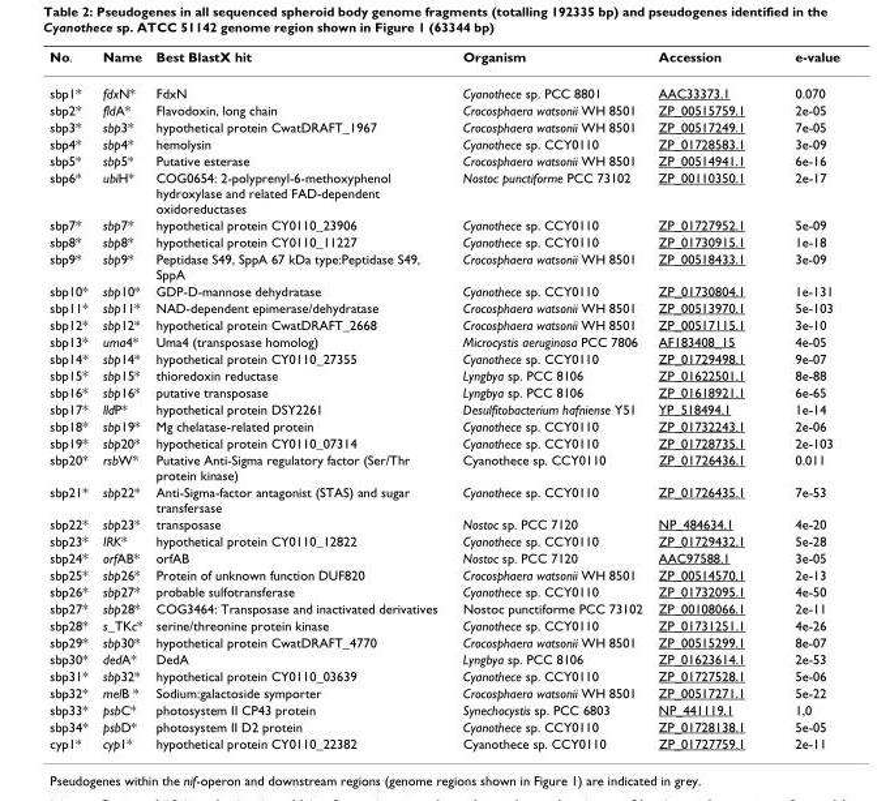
<table><thead><tr><td>No.</td><td>Name</td><td>Best BlastX hit</td><td>Organism</td><td>Accession</td><td>e-value</td></tr></thead><tbody><tr><td>sbp1*</td><td>fdxN*</td><td>FdxN</td><td>Cyanothece sp. PCC 8801</td><td>AAC33373.1</td><td>0.070</td></tr><tr><td>sbp2*</td><td>fldA*</td><td>Flavodoxin, long chain</td><td>Crocosphaera watsonii WH 8501</td><td>ZP_00515759.1</td><td>2e-05</td></tr><tr><td>sbp3*</td><td>sbp3*</td><td>hypothetical protein CwatDRAFT_1967</td><td>Crocosphaera watsonii WH 8501</td><td>ZP_00517249.1</td><td>7e-05</td></tr><tr><td>sbp4*</td><td>sbp4*</td><td>hemolysin</td><td>Cyanothece sp. CCY0110</td><td>ZP_01728583.1</td><td>3e-09</td></tr><tr><td>sbp5*</td><td>sbp5*</td><td>Putative esterase</td><td>Crocosphaera watsonii WH 8501</td><td>ZP_00514941.1</td><td>6e-16</td></tr><tr><td>sbp6*</td><td>ubiH*</td><td>COG0654: 2-polyprenyl-6-methoxyphenol hydroxylase and related FAD-dependent oxidoreductases</td><td>Nostoc punctiforme PCC 73102</td><td>ZP_00110350.1</td><td>2e-17</td></tr><tr><td>sbp7*</td><td>sbp7*</td><td>hypothetical protein CY0110_23906</td><td>Cyanothece sp. CCY0110</td><td>ZP_01727952.1</td><td>5e-09</td></tr><tr><td>sbp8*</td><td>sbp8*</td><td>hypothetical protein CY0110_11227</td><td>Cyanothece sp. CCY0110</td><td>ZP_01730915.1</td><td>1e-18</td></tr><tr><td>sbp9*</td><td>sbp9*</td><td>Peptidase S49, SppA 67 kDa type:Peptidase S49, SppA</td><td>Crocosphaera watsonii WH 8501</td><td>ZP_00518433.1</td><td>3e-09</td></tr><tr><td>sbp10*</td><td>sbp10*</td><td>GDP-D-mannose dehydratase</td><td>Cyanothece sp. CCY0110</td><td>ZP_01730804.1</td><td>1e-131</td></tr><tr><td>sbp11*</td><td>sbp11*</td><td>NAD-dependent epimerase/dehydratase</td><td>Crocosphaera watsonii WH 8501</td><td>ZP_00513970.1</td><td>5e-103</td></tr><tr><td>sbp12*</td><td>sbp12*</td><td>hypothetical protein CwatDRAFT_2668</td><td>Crocosphaera watsonii WH 8501</td><td>ZP_00517115.1</td><td>3e-10</td></tr><tr><td>sbp13*</td><td>uma4*</td><td>Uma4 (transposase homolog)</td><td>Microcystis aeruginosa PCC 7806</td><td>AF183408_15</td><td>4e-05</td></tr><tr><td>sbp14*</td><td>sbp14*</td><td>hypothetical protein CY0110_27355</td><td>Cyanothece sp. CCY0110</td><td>ZP_01729498.1</td><td>9e-07</td></tr><tr><td>sbp15*</td><td>sbp15*</td><td>thioredoxin reductase</td><td>Lyngbya sp. PCC 8106</td><td>ZP_01622501.1</td><td>8e-88</td></tr><tr><td>sbp16*</td><td>sbp16*</td><td>putative transposase</td><td>Lyngbya sp. PCC 8106</td><td>ZP_01618921.1</td><td>6e-65</td></tr><tr><td>sbp17*</td><td>lldP*</td><td>hypothetical protein DSY2261</td><td>Desulfitobacterium hafniense Y51</td><td>YP_518494.1</td><td>1e-14</td></tr><tr><td>sbp18*</td><td>sbp19*</td><td>Mg chelatase-related protein</td><td>Cyanothece sp. CCY0110</td><td>ZP_01732243.1</td><td>2e-06</td></tr><tr><td>sbp19*</td><td>sbp20*</td><td>hypothetical protein CY0110_07314</td><td>Cyanothece sp. CCY0110</td><td>ZP_01728735.1</td><td>2e-103</td></tr><tr><td>sbp20*</td><td>rsbW*</td><td>Putative Anti-Sigma regulatory factor (Ser/Thr protein kinase)</td><td>Cyanothece sp. CCY0110</td><td>ZP_01726436.1</td><td>0.011</td></tr><tr><td>sbp21*</td><td>sbp22*</td><td>Anti-Sigma-factor antagonist (STAS) and sugar transfersase</td><td>Cyanothece sp. CCY0110</td><td>ZP_01726435.1</td><td>7e-53</td></tr><tr><td>sbp22*</td><td>sbp23*</td><td>transposase</td><td>Nostoc sp. PCC 7120</td><td>NP_484634.1</td><td>4e-20</td></tr><tr><td>sbp23*</td><td>IRK*</td><td>hypothetical protein CY0110_12822</td><td>Cyanothece sp. CCY0110</td><td>ZP_01729432.1</td><td>5e-28</td></tr><tr><td>sbp24*</td><td>orfAB*</td><td>orfAB</td><td>Nostoc sp. PCC 7120</td><td>AAC97588.1</td><td>3e-05</td></tr><tr><td>sbp25*</td><td>sbp26*</td><td>Protein of unknown function DUF820</td><td>Crocosphaera watsonii WH 8501</td><td>ZP_00514570.1</td><td>2e-13</td></tr><tr><td>sbp26*</td><td>sbp27*</td><td>probable sulfotransferase</td><td>Cyanothece sp. CCY0110</td><td>ZP_01732095.1</td><td>4e-50</td></tr><tr><td>sbp27*</td><td>sbp28*</td><td>COG3464: Transposase and inactivated derivatives</td><td>Nostoc punctiforme PCC 73102</td><td>ZP_00108066.1</td><td>2e-11</td></tr><tr><td>sbp28*</td><td>s_TKc*</td><td>serine/threonine protein kinase</td><td>Cyanothece sp. CCY0110</td><td>ZP_01731251.1</td><td>4e-26</td></tr><tr><td>sbp29*</td><td>sbp30*</td><td>hypothetical protein CwatDRAFT_4770</td><td>Crocosphaera watsonii WH 8501</td><td>ZP_00515299.1</td><td>8e-07</td></tr><tr><td>sbp30*</td><td>dedA*</td><td>DedA</td><td>Lyngbya sp. PCC 8106</td><td>ZP_01623614.1</td><td>2e-53</td></tr><tr><td>sbp31*</td><td>sbp32*</td><td>hypothetical protein CY0110_03639</td><td>Cyanothece sp. CCY0110</td><td>ZP_01727528.1</td><td>5e-06</td></tr><tr><td>sbp32*</td><td>melB *</td><td>Sodium:galactoside symporter</td><td>Crocosphaera watsonii WH 8501</td><td>ZP_00517271.1</td><td>5e-22</td></tr><tr><td>sbp33*</td><td>psbC*</td><td>photosystem II CP43 protein</td><td>Synechocystis sp. PCC 6803</td><td>NP_441119.1</td><td>1,0</td></tr><tr><td>sbp34*</td><td>psbD*</td><td>photosystem II D2 protein</td><td>Cyanothece sp. CCY0110</td><td>ZP_01728138.1</td><td>5e-05</td></tr><tr><td>cyp1*</td><td>cyp1*</td><td>hypothetical protein CY0110_22382</td><td>Cyanothece sp. CCY0110</td><td>ZP_01727759.1</td><td>2e-11</td></tr></tbody></table>